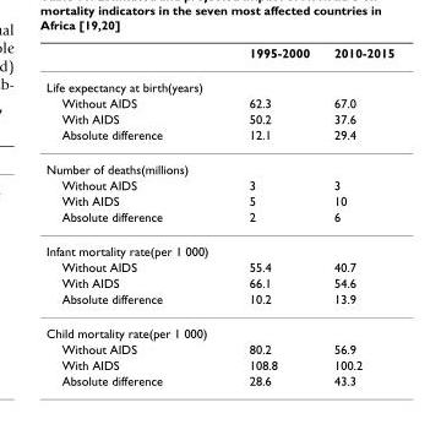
<table><thead><tr><td></td><td>1995-2000</td><td>2010-2015</td></tr></thead><tbody><tr><td colspan="3">Life expectancy at birth(years)</td></tr><tr><td>Without AIDS</td><td>62.3</td><td>67.0</td></tr><tr><td>With AIDS</td><td>50.2</td><td>37.6</td></tr><tr><td>Absolute difference</td><td>12.1</td><td>29.4</td></tr><tr><td colspan="3">Number of deaths(millions)</td></tr><tr><td>Without AIDS</td><td>3</td><td>3</td></tr><tr><td>With AIDS</td><td>5</td><td>10</td></tr><tr><td>Absolute difference</td><td>2</td><td>6</td></tr><tr><td colspan="3">Infant mortality rate(per 1 000)</td></tr><tr><td>Without AIDS</td><td>55.4</td><td>40.7</td></tr><tr><td>With AIDS</td><td>66.1</td><td>54.6</td></tr><tr><td>Absolute difference</td><td>10.2</td><td>13.9</td></tr><tr><td colspan="3">Child mortality rate(per 1 000)</td></tr><tr><td>Without AIDS</td><td>80.2</td><td>56.9</td></tr><tr><td>With AIDS</td><td>108.8</td><td>100.2</td></tr><tr><td>Absolute difference</td><td>28.6</td><td>43.3</td></tr></tbody></table>